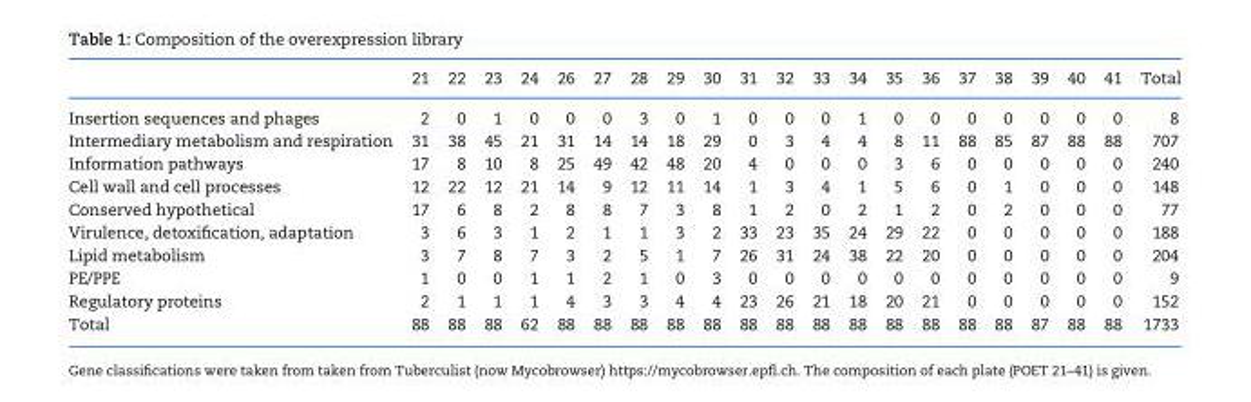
<table><thead><tr><td></td><td>21</td><td>22</td><td>23</td><td>24</td><td>26</td><td>27</td><td>28</td><td>29</td><td>30</td><td>31</td><td>32</td><td>33</td><td>34</td><td>35</td><td>36</td><td>37</td><td>38</td><td>39</td><td>40</td><td>41</td><td>Total</td></tr></thead><tbody><tr><td>Insertion sequences and phages</td><td>2</td><td>0</td><td>1</td><td>0</td><td>0</td><td>0</td><td>3</td><td>0</td><td>1</td><td>0</td><td>0</td><td>0</td><td>1</td><td>0</td><td>0</td><td>0</td><td>0</td><td>0</td><td>0</td><td>0</td><td>8</td></tr><tr><td>Intermediary metabolism and respiration</td><td>31</td><td>38</td><td>45</td><td>21</td><td>31</td><td>14</td><td>14</td><td>18</td><td>29</td><td>0</td><td>3</td><td>4</td><td>4</td><td>8</td><td>11</td><td>88</td><td>85</td><td>87</td><td>88</td><td>88</td><td>707</td></tr><tr><td>Information pathways</td><td>17</td><td>8</td><td>10</td><td>8</td><td>25</td><td>49</td><td>42</td><td>48</td><td>20</td><td>4</td><td>0</td><td>0</td><td>0</td><td>3</td><td>6</td><td>0</td><td>0</td><td>0</td><td>0</td><td>0</td><td>240</td></tr><tr><td>Cell wall and cell processes</td><td>12</td><td>22</td><td>12</td><td>21</td><td>14</td><td>9</td><td>12</td><td>11</td><td>14</td><td>1</td><td>3</td><td>4</td><td>1</td><td>5</td><td>6</td><td>0</td><td>1</td><td>0</td><td>0</td><td>0</td><td>148</td></tr><tr><td>Conserved hypothetical</td><td>17</td><td>6</td><td>8</td><td>2</td><td>8</td><td>8</td><td>7</td><td>3</td><td>8</td><td>1</td><td>2</td><td>0</td><td>2</td><td>1</td><td>2</td><td>0</td><td>2</td><td>0</td><td>0</td><td>0</td><td>77</td></tr><tr><td>Virulence, detoxification, adaptation</td><td>3</td><td>6</td><td>3</td><td>1</td><td>2</td><td>1</td><td>1</td><td>3</td><td>2</td><td>33</td><td>23</td><td>35</td><td>24</td><td>29</td><td>22</td><td>0</td><td>0</td><td>0</td><td>0</td><td>0</td><td>188</td></tr><tr><td>Lipid metabolism</td><td>3</td><td>7</td><td>8</td><td>7</td><td>3</td><td>2</td><td>5</td><td>1</td><td>7</td><td>26</td><td>31</td><td>24</td><td>38</td><td>22</td><td>20</td><td>0</td><td>0</td><td>0</td><td>0</td><td>0</td><td>204</td></tr><tr><td>PE/PPE</td><td>1</td><td>0</td><td>0</td><td>1</td><td>1</td><td>2</td><td>1</td><td>0</td><td>3</td><td>0</td><td>0</td><td>0</td><td>0</td><td>0</td><td>0</td><td>0</td><td>0</td><td>0</td><td>0</td><td>0</td><td>9</td></tr><tr><td>Regulatory proteins</td><td>2</td><td>1</td><td>1</td><td>1</td><td>4</td><td>3</td><td>3</td><td>4</td><td>4</td><td>23</td><td>26</td><td>21</td><td>18</td><td>20</td><td>21</td><td>0</td><td>0</td><td>0</td><td>0</td><td>0</td><td>152</td></tr><tr><td>Total</td><td>88</td><td>88</td><td>88</td><td>62</td><td>88</td><td>88</td><td>88</td><td>88</td><td>88</td><td>88</td><td>88</td><td>88</td><td>88</td><td>88</td><td>88</td><td>88</td><td>88</td><td>87</td><td>88</td><td>88</td><td>1733</td></tr></tbody></table>